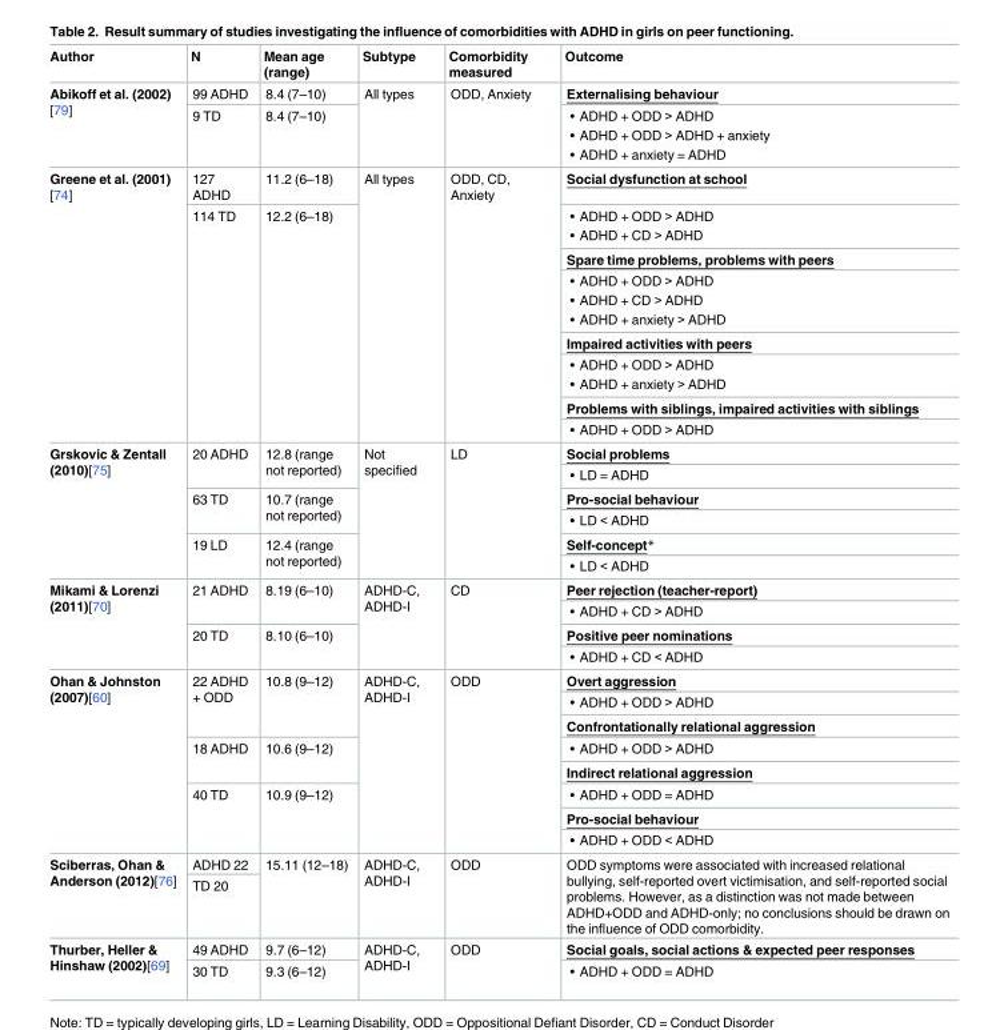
<table><thead><tr><td>Author</td><td>N</td><td>Mean age (range)</td><td>Subtype</td><td>Comorbidity measured</td><td>Outcome</td></tr></thead><tbody><tr><td rowspan="2">Abikoff et al. (2002) [79]</td><td>99 ADHD</td><td>8.4 (7–10)</td><td rowspan="2">All types</td><td rowspan="2">ODD, Anxiety</td><td>Externalising behaviour</td></tr><tr><td>9 TD</td><td>8.4 (7–10)</td><td>• ADHD + ODD &gt; ADHD • ADHD + ODD &gt; ADHD + anxiety • ADHD + anxiety = ADHD</td></tr><tr><td rowspan="8">Greene et al. (2001) [74]</td><td>127 ADHD</td><td>11.2 (6–18)</td><td rowspan="8">All types</td><td rowspan="8">ODD, CD, Anxiety</td><td>Social dysfunction at school</td></tr><tr><td rowspan="7">114 TD</td><td rowspan="7">12.2 (6–18)</td><td>• ADHD + ODD &gt; ADHD • ADHD + CD &gt; ADHD</td></tr><tr><td>Spare time problems, problems with peers</td></tr><tr><td>• ADHD + ODD &gt; ADHD • ADHD + CD &gt; ADHD • ADHD + anxiety &gt; ADHD</td></tr><tr><td>Impaired activities with peers</td></tr><tr><td>• ADHD + ODD &gt; ADHD • ADHD + anxiety &gt; ADHD</td></tr><tr><td>Problems with siblings, impaired activities with siblings</td></tr><tr><td>• ADHD + ODD &gt; ADHD</td></tr><tr><td rowspan="6">Grskovic &amp; Zentall (2010)[75]</td><td rowspan="2">20 ADHD</td><td rowspan="2">12.8 (range not reported)</td><td rowspan="6">Not specified</td><td rowspan="6">LD</td><td>Social problems</td></tr><tr><td>• LD = ADHD</td></tr><tr><td rowspan="2">63 TD</td><td rowspan="2">10.7 (range not reported)</td><td>Pro-social behaviour</td></tr><tr><td>• LD &lt; ADHD</td></tr><tr><td rowspan="2">19 LD</td><td rowspan="2">12.4 (range not reported)</td><td>Self-concept*</td></tr><tr><td>• LD &lt; ADHD</td></tr><tr><td rowspan="4">Mikami &amp; Lorenzi (2011)[70]</td><td rowspan="2">21 ADHD</td><td rowspan="2">8.19 (6–10)</td><td rowspan="4">ADHD-C, ADHD-I</td><td rowspan="4">CD</td><td>Peer rejection (teacher-report)</td></tr><tr><td>• ADHD + CD &gt; ADHD</td></tr><tr><td rowspan="2">20 TD</td><td rowspan="2">8.10 (6–10)</td><td>Positive peer nominations</td></tr><tr><td>• ADHD + CD &lt; ADHD</td></tr><tr><td rowspan="8">Ohan &amp; Johnston (2007)[60]</td><td rowspan="3">22 ADHD + ODD</td><td rowspan="3">10.8 (9–12)</td><td rowspan="8">ADHD-C, ADHD-I</td><td rowspan="8">ODD</td><td>Overt aggression</td></tr><tr><td>• ADHD + ODD &gt; ADHD</td></tr><tr><td>Confrontationally relational aggression</td></tr><tr><td rowspan="2">18 ADHD</td><td rowspan="2">10.6 (9–12)</td><td>• ADHD + ODD &gt; ADHD</td></tr><tr><td>Indirect relational aggression</td></tr><tr><td rowspan="3">40 TD</td><td rowspan="3">10.9 (9–12)</td><td>• ADHD + ODD = ADHD</td></tr><tr><td>Pro-social behaviour</td></tr><tr><td>• ADHD + ODD &lt; ADHD</td></tr><tr><td rowspan="2">Sciberras, Ohan &amp; Anderson (2012)[76]</td><td>ADHD 22</td><td rowspan="2">15.11 (12–18)</td><td rowspan="2">ADHD-C, ADHD-I</td><td rowspan="2">ODD</td><td rowspan="2">ODD symptoms were associated with increased relational bullying, self-reported overt victimisation, and self-reported social problems. However, as a distinction was not made between ADHD+ODD and ADHD-only; no conclusions should be drawn on the influence of ODD comorbidity.</td></tr><tr><td>TD 20</td></tr><tr><td rowspan="2">Thurber, Heller &amp; Hinshaw (2002)[69]</td><td>49 ADHD</td><td>9.7 (6–12)</td><td rowspan="2">ADHD-C, ADHD-I</td><td rowspan="2">ODD</td><td>Social goals, social actions &amp; expected peer responses</td></tr><tr><td>30 TD</td><td>9.3 (6–12)</td><td>• ADHD + ODD = ADHD</td></tr></tbody></table>